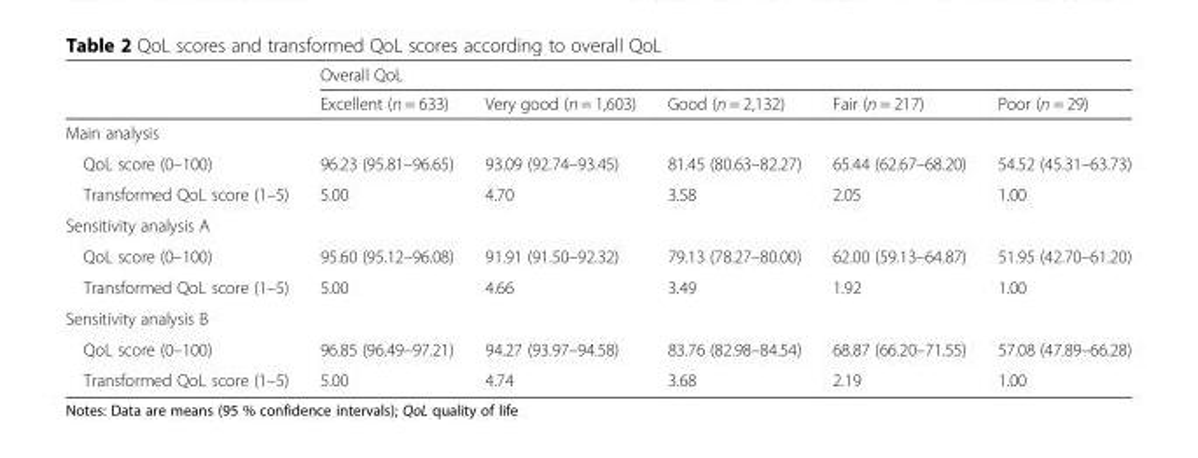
<table><thead><tr><td rowspan="2"></td><td colspan="5">Overall QoL</td></tr><tr><td>Excellent (n = 633)</td><td>Very good (n = 1,603)</td><td>Good (n = 2,132)</td><td>Fair (n = 217)</td><td>Poor (n = 29)</td></tr></thead><tbody><tr><td colspan="6">Main analysis</td></tr><tr><td>QoL score (0–100)</td><td>96.23 (95.81–96.65)</td><td>93.09 (92.74–93.45)</td><td>81.45 (80.63–82.27)</td><td>65.44 (62.67–68.20)</td><td>54.52 (45.31–63.73)</td></tr><tr><td>Transformed QoL score (1–5)</td><td>5.00</td><td>4.70</td><td>3.58</td><td>2.05</td><td>1.00</td></tr><tr><td colspan="6">Sensitivity analysis A</td></tr><tr><td>QoL score (0–100)</td><td>95.60 (95.12–96.08)</td><td>91.91 (91.50–92.32)</td><td>79.13 (78.27–80.00)</td><td>62.00 (59.13–64.87)</td><td>51.95 (42.70–61.20)</td></tr><tr><td>Transformed QoL score (1–5)</td><td>5.00</td><td>4.66</td><td>3.49</td><td>1.92</td><td>1.00</td></tr><tr><td colspan="6">Sensitivity analysis B</td></tr><tr><td>QoL score (0–100)</td><td>96.85 (96.49–97.21)</td><td>94.27 (93.97–94.58)</td><td>83.76 (82.98–84.54)</td><td>68.87 (66.20–71.55)</td><td>57.08 (47.89–66.28)</td></tr><tr><td>Transformed QoL score (1–5)</td><td>5.00</td><td>4.74</td><td>3.68</td><td>2.19</td><td>1.00</td></tr></tbody></table>